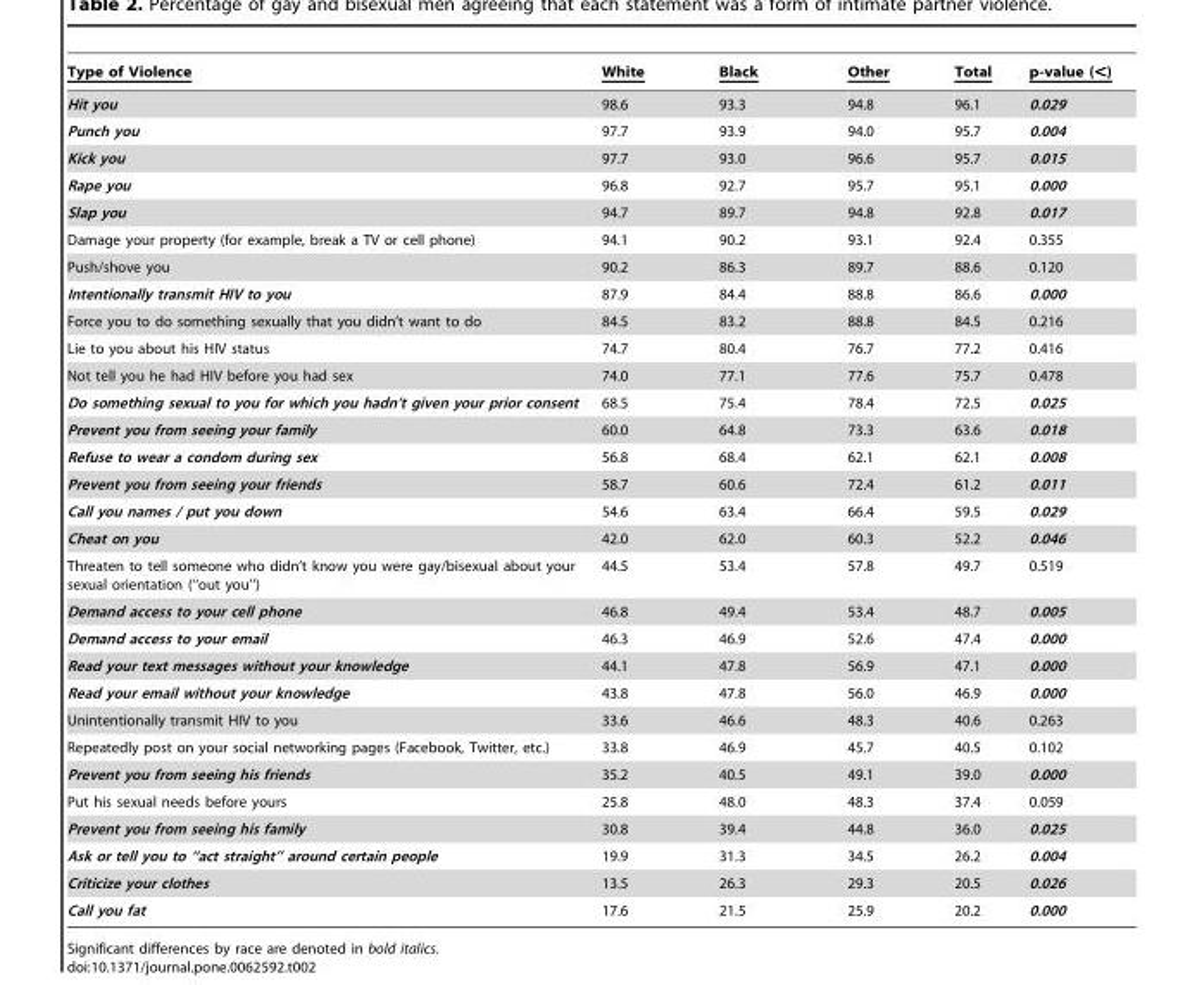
<table><thead><tr><td>Type of Violence</td><td>White</td><td>Black</td><td>Other</td><td>Total</td><td>p-value (&lt;)</td></tr></thead><tbody><tr><td>Hit you</td><td>98.6</td><td>93.3</td><td>94.8</td><td>96.1</td><td>0.029</td></tr><tr><td>Punch you</td><td>97.7</td><td>93.9</td><td>94.0</td><td>95.7</td><td>0.004</td></tr><tr><td>Kick you</td><td>97.7</td><td>93.0</td><td>96.6</td><td>95.7</td><td>0.015</td></tr><tr><td>Rape you</td><td>96.8</td><td>92.7</td><td>95.7</td><td>95.1</td><td>0.000</td></tr><tr><td>Slap you</td><td>94.7</td><td>89.7</td><td>94.8</td><td>92.8</td><td>0.017</td></tr><tr><td>Damage your property (for example, break a TV or cell phone)</td><td>94.1</td><td>90.2</td><td>93.1</td><td>92.4</td><td>0.355</td></tr><tr><td>Push/shove you</td><td>90.2</td><td>86.3</td><td>89.7</td><td>88.6</td><td>0.120</td></tr><tr><td>Intentionally transmit HIV to you</td><td>87.9</td><td>84.4</td><td>88.8</td><td>86.6</td><td>0.000</td></tr><tr><td>Force you to do something sexually that you didn’t want to do</td><td>84.5</td><td>83.2</td><td>88.8</td><td>84.5</td><td>0.216</td></tr><tr><td>Lie to you about his HIV status</td><td>74.7</td><td>80.4</td><td>76.7</td><td>77.2</td><td>0.416</td></tr><tr><td>Not tell you he had HIV before you had sex</td><td>74.0</td><td>77.1</td><td>77.6</td><td>75.7</td><td>0.478</td></tr><tr><td>Do something sexual to you for which you hadn’t given your prior consent</td><td>68.5</td><td>75.4</td><td>78.4</td><td>72.5</td><td>0.025</td></tr><tr><td>Prevent you from seeing your family</td><td>60.0</td><td>64.8</td><td>73.3</td><td>63.6</td><td>0.018</td></tr><tr><td>Refuse to wear a condom during sex</td><td>56.8</td><td>68.4</td><td>62.1</td><td>62.1</td><td>0.008</td></tr><tr><td>Prevent you from seeing your friends</td><td>58.7</td><td>60.6</td><td>72.4</td><td>61.2</td><td>0.011</td></tr><tr><td>Call you names / put you down</td><td>54.6</td><td>63.4</td><td>66.4</td><td>59.5</td><td>0.029</td></tr><tr><td>Cheat on you</td><td>42.0</td><td>62.0</td><td>60.3</td><td>52.2</td><td>0.046</td></tr><tr><td>Threaten to tell someone who didn’t know you were gay/bisexual about your sexual orientation (‘‘out you’’)</td><td>44.5</td><td>53.4</td><td>57.8</td><td>49.7</td><td>0.519</td></tr><tr><td>Demand access to your cell phone</td><td>46.8</td><td>49.4</td><td>53.4</td><td>48.7</td><td>0.005</td></tr><tr><td>Demand access to your email</td><td>46.3</td><td>46.9</td><td>52.6</td><td>47.4</td><td>0.000</td></tr><tr><td>Read your text messages without your knowledge</td><td>44.1</td><td>47.8</td><td>56.9</td><td>47.1</td><td>0.000</td></tr><tr><td>Read your email without your knowledge</td><td>43.8</td><td>47.8</td><td>56.0</td><td>46.9</td><td>0.000</td></tr><tr><td>Unintentionally transmit HIV to you</td><td>33.6</td><td>46.6</td><td>48.3</td><td>40.6</td><td>0.263</td></tr><tr><td>Repeatedly post on your social networking pages (Facebook, Twitter, etc.)</td><td>33.8</td><td>46.9</td><td>45.7</td><td>40.5</td><td>0.102</td></tr><tr><td>Prevent you from seeing his friends</td><td>35.2</td><td>40.5</td><td>49.1</td><td>39.0</td><td>0.000</td></tr><tr><td>Put his sexual needs before yours</td><td>25.8</td><td>48.0</td><td>48.3</td><td>37.4</td><td>0.059</td></tr><tr><td>Prevent you from seeing his family</td><td>30.8</td><td>39.4</td><td>44.8</td><td>36.0</td><td>0.025</td></tr><tr><td>Ask or tell you to ‘‘act straight’’ around certain people</td><td>19.9</td><td>31.3</td><td>34.5</td><td>26.2</td><td>0.004</td></tr><tr><td>Criticize your clothes</td><td>13.5</td><td>26.3</td><td>29.3</td><td>20.5</td><td>0.026</td></tr><tr><td>Call you fat</td><td>17.6</td><td>21.5</td><td>25.9</td><td>20.2</td><td>0.000</td></tr></tbody></table>